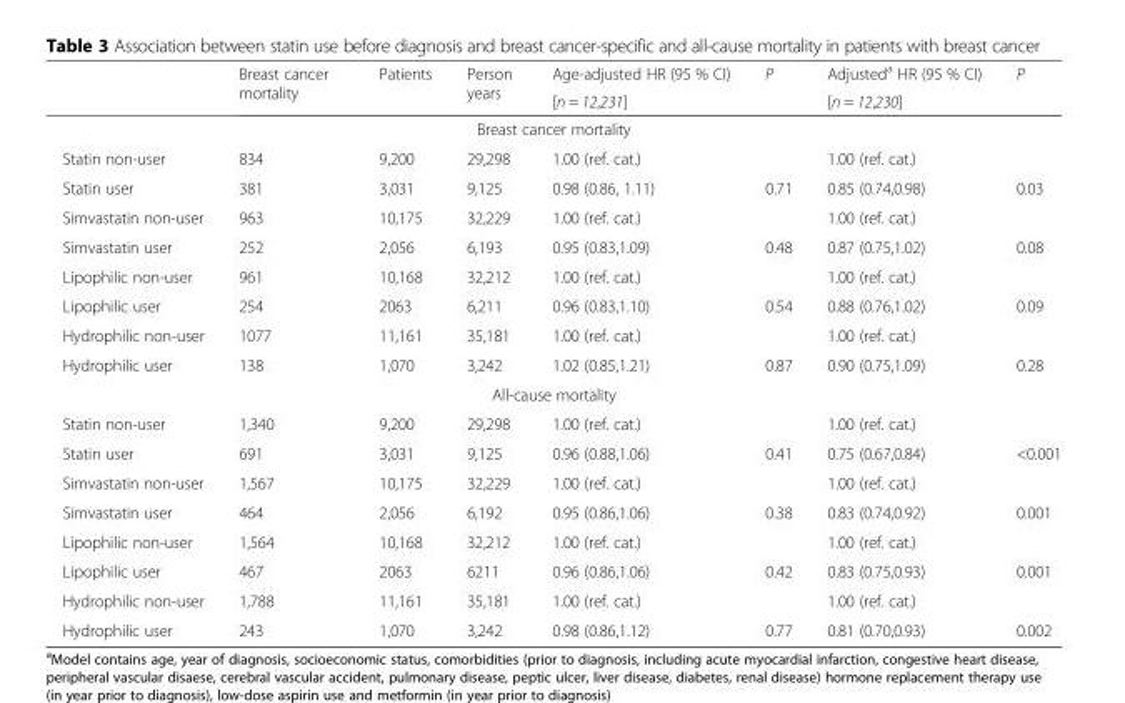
<table><thead><tr><td rowspan="2"></td><td rowspan="2">Breast cancer mortality</td><td rowspan="2">Patients</td><td rowspan="2">Person years</td><td rowspan="2">Age-adjusted HR (95 % CI) [n = 12,231]</td><td rowspan="2">P</td><td rowspan="2">Adjusted<sup>a</sup> HR (95 % CI) [n = 12,230]</td><td rowspan="2">P</td></tr><tr></tr></thead><tbody><tr><td colspan="8">Breast cancer mortality</td></tr><tr><td>Statin non-user</td><td>834</td><td>9,200</td><td>29,298</td><td>1.00 (ref. cat.)</td><td></td><td>1.00 (ref. cat.)</td><td></td></tr><tr><td>Statin user</td><td>381</td><td>3,031</td><td>9,125</td><td>0.98 (0.86, 1.11)</td><td>0.71</td><td>0.85 (0.74,0.98)</td><td>0.03</td></tr><tr><td>Simvastatin non-user</td><td>963</td><td>10,175</td><td>32,229</td><td>1.00 (ref. cat.)</td><td></td><td>1.00 (ref. cat.)</td><td></td></tr><tr><td>Simvastatin user</td><td>252</td><td>2,056</td><td>6,193</td><td>0.95 (0.83,1.09)</td><td>0.48</td><td>0.87 (0.75,1.02)</td><td>0.08</td></tr><tr><td>Lipophilic non-user</td><td>961</td><td>10,168</td><td>32,212</td><td>1.00 (ref. cat.)</td><td></td><td>1.00 (ref. cat.)</td><td></td></tr><tr><td>Lipophilic user</td><td>254</td><td>2063</td><td>6,211</td><td>0.96 (0.83,1.10)</td><td>0.54</td><td>0.88 (0.76,1.02)</td><td>0.09</td></tr><tr><td>Hydrophilic non-user</td><td>1077</td><td>11,161</td><td>35,181</td><td>1.00 (ref. cat.)</td><td></td><td>1.00 (ref. cat.)</td><td></td></tr><tr><td>Hydrophilic user</td><td>138</td><td>1,070</td><td>3,242</td><td>1.02 (0.85,1.21)</td><td>0.87</td><td>0.90 (0.75,1.09)</td><td>0.28</td></tr><tr><td colspan="8">All-cause mortality</td></tr><tr><td>Statin non-user</td><td>1,340</td><td>9,200</td><td>29,298</td><td>1.00 (ref. cat.)</td><td></td><td>1.00 (ref. cat.)</td><td></td></tr><tr><td>Statin user</td><td>691</td><td>3,031</td><td>9,125</td><td>0.96 (0.88,1.06)</td><td>0.41</td><td>0.75 (0.67,0.84)</td><td>&lt;0.001</td></tr><tr><td>Simvastatin non-user</td><td>1,567</td><td>10,175</td><td>32,229</td><td>1.00 (ref. cat.)</td><td></td><td>1.00 (ref. cat.)</td><td></td></tr><tr><td>Simvastatin user</td><td>464</td><td>2,056</td><td>6,192</td><td>0.95 (0.86,1.06)</td><td>0.38</td><td>0.83 (0.74,0.92)</td><td>0.001</td></tr><tr><td>Lipophilic non-user</td><td>1,564</td><td>10,168</td><td>32,212</td><td>1.00 (ref. cat.)</td><td></td><td>1.00 (ref. cat.)</td><td></td></tr><tr><td>Lipophilic user</td><td>467</td><td>2063</td><td>6211</td><td>0.96 (0.86,1.06)</td><td>0.42</td><td>0.83 (0.75,0.93)</td><td>0.001</td></tr><tr><td>Hydrophilic non-user</td><td>1,788</td><td>11,161</td><td>35,181</td><td>1.00 (ref. cat.)</td><td></td><td>1.00 (ref. cat.)</td><td></td></tr><tr><td>Hydrophilic user</td><td>243</td><td>1,070</td><td>3,242</td><td>0.98 (0.86,1.12)</td><td>0.77</td><td>0.81 (0.70,0.93)</td><td>0.002</td></tr></tbody></table>